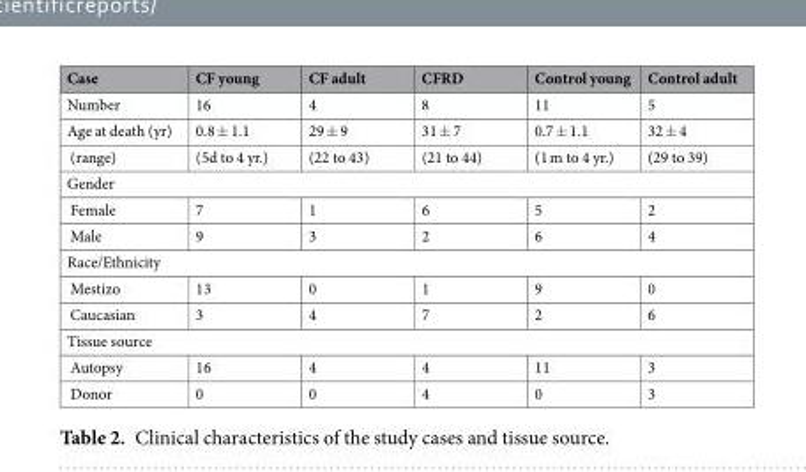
<table><thead><tr><td>Case</td><td>CF young</td><td>CF adult</td><td>CFRD</td><td>Control young</td><td>Control adult</td></tr></thead><tbody><tr><td>Number</td><td>16</td><td>4</td><td>8</td><td>11</td><td>5</td></tr><tr><td>Age at death (yr)</td><td>0.8 ± 1.1</td><td>29 ± 9</td><td>31 ± 7</td><td>0.7 ± 1.1</td><td>32 ± 4</td></tr><tr><td>(range)</td><td>(5d to 4 yr.)</td><td>(22 to 43)</td><td>(21 to 44)</td><td>(1 m to 4 yr.)</td><td>(29 to 39)</td></tr><tr><td colspan="6">Gender</td></tr><tr><td>Female</td><td>7</td><td>1</td><td>6</td><td>5</td><td>2</td></tr><tr><td>Male</td><td>9</td><td>3</td><td>2</td><td>6</td><td>4</td></tr><tr><td colspan="6">Race/Ethnicity</td></tr><tr><td>Mestizo</td><td>13</td><td>0</td><td>1</td><td>9</td><td>0</td></tr><tr><td>Caucasian</td><td>3</td><td>4</td><td>7</td><td>2</td><td>6</td></tr><tr><td colspan="6">Tissue source</td></tr><tr><td>Autopsy</td><td>16</td><td>4</td><td>4</td><td>11</td><td>3</td></tr><tr><td>Donor</td><td>0</td><td>0</td><td>4</td><td>0</td><td>3</td></tr></tbody></table>